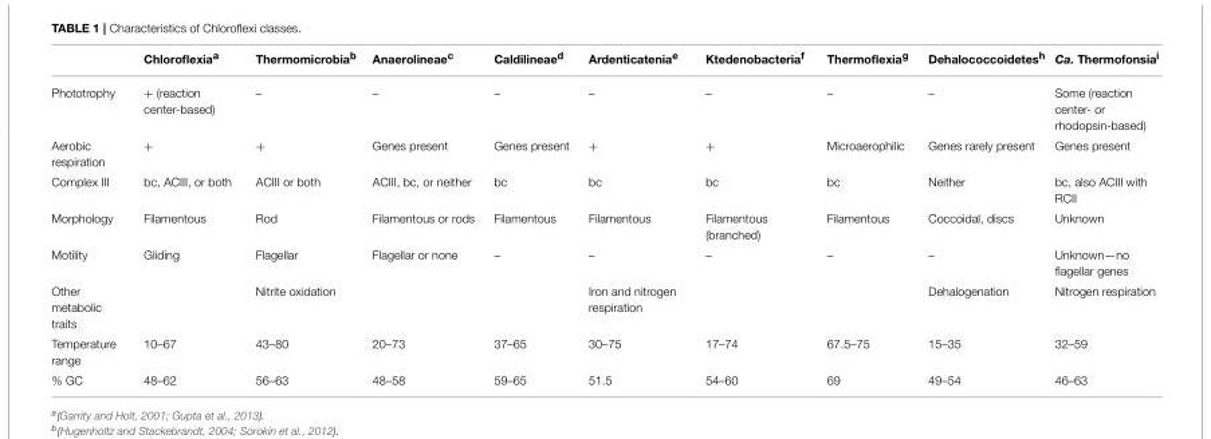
<table><thead><tr><td></td><td>Chloroflexia<sup>a</sup></td><td>Thermomicrobia<sup>b</sup></td><td>Anaerolineae<sup>c</sup></td><td>Caldilineae<sup>d</sup></td><td>Ardenticatenia<sup>e</sup></td><td>Ktedenobacteria<sup>f</sup></td><td>Thermoflexia<sup>g</sup></td><td>Dehalococcoidetes<sup>h</sup></td><td>Ca. Thermofonsia<sup>i</sup></td></tr></thead><tbody><tr><td>Phototrophy</td><td>+ (reaction center-based)</td><td>–</td><td>–</td><td>–</td><td>–</td><td>–</td><td>–</td><td>–</td><td>Some (reaction center- or rhodopsin-based)</td></tr><tr><td>Aerobic respiration</td><td>+</td><td>+</td><td>Genes present</td><td>Genes present</td><td>+</td><td>+</td><td>Microaerophilic</td><td>Genes rarely present</td><td>Genes present</td></tr><tr><td>Complex III</td><td>bc, ACIII, or both</td><td>ACIII or both</td><td>ACIII, bc, or neither</td><td>bc</td><td>bc</td><td>bc</td><td>bc</td><td>Neither</td><td>bc, also ACIII with RCII</td></tr><tr><td>Morphology</td><td>Filamentous</td><td>Rod</td><td>Filamentous or rods</td><td>Filamentous</td><td>Filamentous</td><td>Filamentous (branched)</td><td>Filamentous</td><td>Coccoidal, discs</td><td>Unknown</td></tr><tr><td>Motility</td><td>Gliding</td><td>Flagellar</td><td>Flagellar or none</td><td>–</td><td>–</td><td>–</td><td>–</td><td>–</td><td>Unknown—no flagellar genes</td></tr><tr><td>Other metabolic traits</td><td></td><td>Nitrite oxidation</td><td></td><td></td><td>Iron and nitrogen respiration</td><td></td><td></td><td>Dehalogenation</td><td>Nitrogen respiration</td></tr><tr><td>Temperature range</td><td>10–67</td><td>43–80</td><td>20–73</td><td>37–65</td><td>30–75</td><td>17–74</td><td>67.5–75</td><td>15–35</td><td>32–59</td></tr><tr><td>% GC</td><td>48–62</td><td>56–63</td><td>48–58</td><td>59–65</td><td>51.5</td><td>54–60</td><td>69</td><td>49–54</td><td>46–63</td></tr></tbody></table>